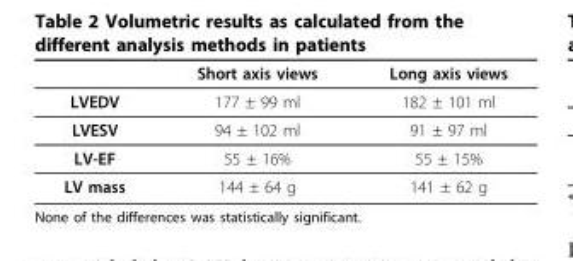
<table><thead><tr><td></td><td>Short axis views</td><td>Long axis views</td></tr></thead><tbody><tr><td>LVEDV</td><td>177 ± 99 ml</td><td>182 ± 101 ml</td></tr><tr><td>LVESV</td><td>94 ± 102 ml</td><td>91 ± 97 ml</td></tr><tr><td>LV-EF</td><td>55 ± 16%</td><td>55 ± 15%</td></tr><tr><td>LV mass</td><td>144 ± 64 g</td><td>141 ± 62 g</td></tr></tbody></table>